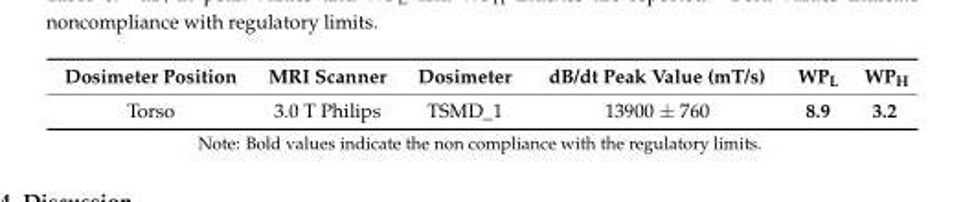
<table><thead><tr><td>Dosimeter Position</td><td>MRI Scanner</td><td>Dosimeter</td><td>dB/dt Peak Value (mT/s)</td><td>WP<sub>L</sub></td><td>WP<sub>H</sub></td></tr></thead><tbody><tr><td>Torso</td><td>3.0 T Philips</td><td>TSMD_1</td><td>13900 ± 760</td><td>8.9</td><td>3.2</td></tr></tbody></table>